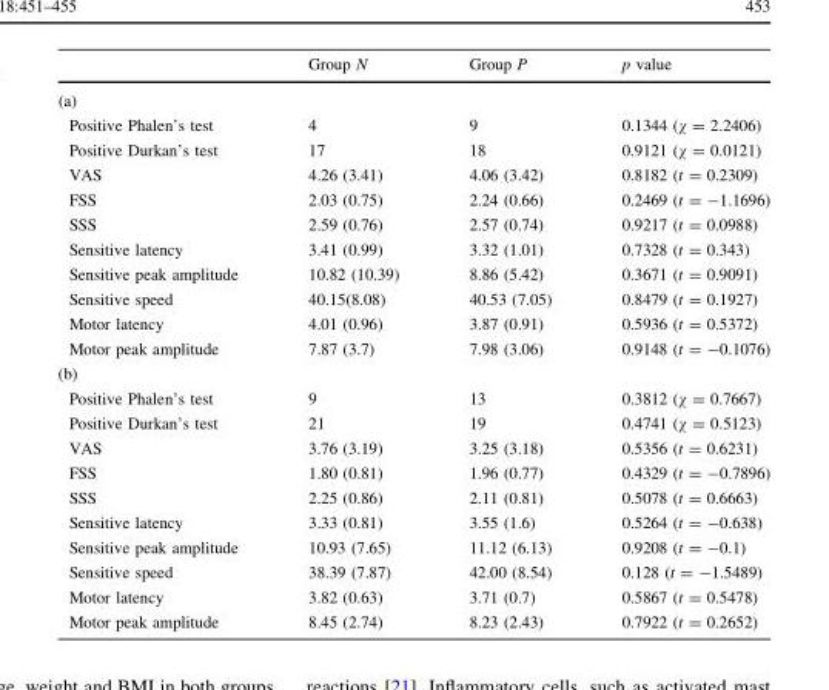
<table><thead><tr><td></td><td>Group N</td><td>Group P</td><td>p value</td></tr></thead><tbody><tr><td colspan="4">(a)</td></tr><tr><td>Positive Phalen’s test</td><td>4</td><td>9</td><td>0.1344 (χ = 2.2406)</td></tr><tr><td>Positive Durkan’s test</td><td>17</td><td>18</td><td>0.9121 (χ = 0.0121)</td></tr><tr><td>VAS</td><td>4.26 (3.41)</td><td>4.06 (3.42)</td><td>0.8182 (t = 0.2309)</td></tr><tr><td>FSS</td><td>2.03 (0.75)</td><td>2.24 (0.66)</td><td>0.2469 (t = -1.1696)</td></tr><tr><td>SSS</td><td>2.59 (0.76)</td><td>2.57 (0.74)</td><td>0.9217 (t = 0.0988)</td></tr><tr><td>Sensitive latency</td><td>3.41 (0.99)</td><td>3.32 (1.01)</td><td>0.7328 (t = 0.343)</td></tr><tr><td>Sensitive peak amplitude</td><td>10.82 (10.39)</td><td>8.86 (5.42)</td><td>0.3671 (t = 0.9091)</td></tr><tr><td>Sensitive speed</td><td>40.15(8.08)</td><td>40.53 (7.05)</td><td>0.8479 (t = 0.1927)</td></tr><tr><td>Motor latency</td><td>4.01 (0.96)</td><td>3.87 (0.91)</td><td>0.5936 (t = 0.5372)</td></tr><tr><td>Motor peak amplitude</td><td>7.87 (3.7)</td><td>7.98 (3.06)</td><td>0.9148 (t = -0.1076)</td></tr><tr><td colspan="4">(b)</td></tr><tr><td>Positive Phalen’s test</td><td>9</td><td>13</td><td>0.3812 (χ = 0.7667)</td></tr><tr><td>Positive Durkan’s test</td><td>21</td><td>19</td><td>0.4741 (χ = 0.5123)</td></tr><tr><td>VAS</td><td>3.76 (3.19)</td><td>3.25 (3.18)</td><td>0.5356 (t = 0.6231)</td></tr><tr><td>FSS</td><td>1.80 (0.81)</td><td>1.96 (0.77)</td><td>0.4329 (t = -0.7896)</td></tr><tr><td>SSS</td><td>2.25 (0.86)</td><td>2.11 (0.81)</td><td>0.5078 (t = 0.6663)</td></tr><tr><td>Sensitive latency</td><td>3.33 (0.81)</td><td>3.55 (1.6)</td><td>0.5264 (t = -0.638)</td></tr><tr><td>Sensitive peak amplitude</td><td>10.93 (7.65)</td><td>11.12 (6.13)</td><td>0.9208 (t = -0.1)</td></tr><tr><td>Sensitive speed</td><td>38.39 (7.87)</td><td>42.00 (8.54)</td><td>0.128 (t = -1.5489)</td></tr><tr><td>Motor latency</td><td>3.82 (0.63)</td><td>3.71 (0.7)</td><td>0.5867 (t = 0.5478)</td></tr><tr><td>Motor peak amplitude</td><td>8.45 (2.74)</td><td>8.23 (2.43)</td><td>0.7922 (t = 0.2652)</td></tr></tbody></table>